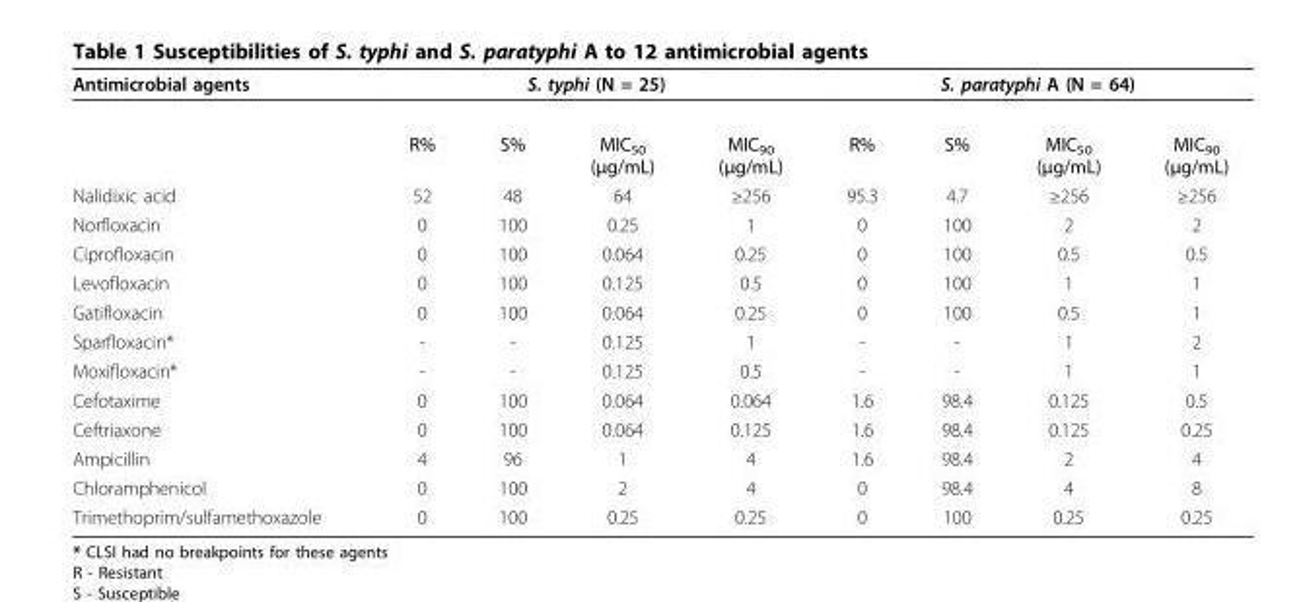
<table><thead><tr><td rowspan="2">Antimicrobial agents</td><td colspan="4">S. typhi (N = 25)</td><td colspan="4">S. paratyphi A (N = 64)</td></tr><tr><td>R%</td><td>S%</td><td>MIC<sub>50</sub> (μg/mL)</td><td>MIC<sub>90</sub> (μg/mL)</td><td>R%</td><td>S%</td><td>MIC<sub>50</sub> (μg/mL)</td><td>MIC<sub>90</sub> (μg/mL)</td></tr></thead><tbody><tr><td>Nalidixic acid</td><td>52</td><td>48</td><td>64</td><td>≥256</td><td>95.3</td><td>4.7</td><td>≥256</td><td>≥256</td></tr><tr><td>Norfloxacin</td><td>0</td><td>100</td><td>0.25</td><td>1</td><td>0</td><td>100</td><td>2</td><td>2</td></tr><tr><td>Ciprofloxacin</td><td>0</td><td>100</td><td>0.064</td><td>0.25</td><td>0</td><td>100</td><td>0.5</td><td>0.5</td></tr><tr><td>Levofloxacin</td><td>0</td><td>100</td><td>0.125</td><td>0.5</td><td>0</td><td>100</td><td>1</td><td>1</td></tr><tr><td>Gatifloxacin</td><td>0</td><td>100</td><td>0.064</td><td>0.25</td><td>0</td><td>100</td><td>0.5</td><td>1</td></tr><tr><td>Sparfloxacin*</td><td>-</td><td>-</td><td>0.125</td><td>1</td><td>-</td><td>-</td><td>1</td><td>2</td></tr><tr><td>Moxifloxacin*</td><td>-</td><td>-</td><td>0.125</td><td>0.5</td><td>-</td><td>-</td><td>1</td><td>1</td></tr><tr><td>Cefotaxime</td><td>0</td><td>100</td><td>0.064</td><td>0.064</td><td>1.6</td><td>98.4</td><td>0.125</td><td>0.5</td></tr><tr><td>Ceftriaxone</td><td>0</td><td>100</td><td>0.064</td><td>0.125</td><td>1.6</td><td>98.4</td><td>0.125</td><td>0.25</td></tr><tr><td>Ampicillin</td><td>4</td><td>96</td><td>1</td><td>4</td><td>1.6</td><td>98.4</td><td>2</td><td>4</td></tr><tr><td>Chloramphenicol</td><td>0</td><td>100</td><td>2</td><td>4</td><td>0</td><td>98.4</td><td>4</td><td>8</td></tr><tr><td>Trimethoprim/sulfamethoxazole</td><td>0</td><td>100</td><td>0.25</td><td>0.25</td><td>0</td><td>100</td><td>0.25</td><td>0.25</td></tr></tbody></table>